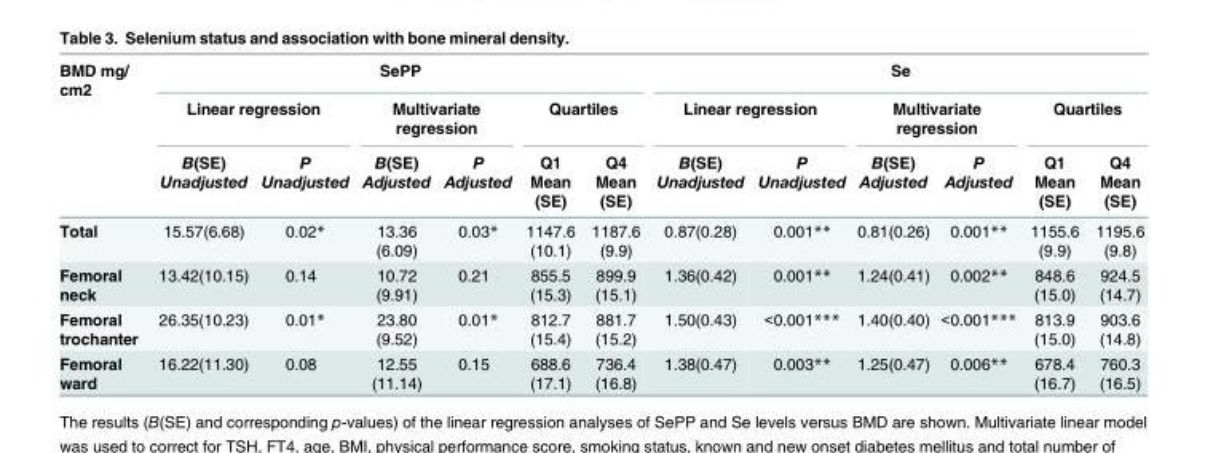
<table><thead><tr><td rowspan="3">BMD mg/ cm2</td><td colspan="6">SePP</td><td colspan="6">Se</td></tr><tr><td colspan="2">Linear regression</td><td colspan="2">Multivariate regression</td><td colspan="2">Quartiles</td><td colspan="2">Linear regression</td><td colspan="2">Multivariate regression</td><td colspan="2">Quartiles</td></tr><tr><td>B(SE) Unadjusted</td><td>P Unadjusted</td><td>B(SE) Adjusted</td><td>P Adjusted</td><td>Q1 Mean (SE)</td><td>Q4 Mean (SE)</td><td>B(SE) Unadjusted</td><td>P Unadjusted</td><td>B(SE) Adjusted</td><td>P Adjusted</td><td>Q1 Mean (SE)</td><td>Q4 Mean (SE)</td></tr></thead><tbody><tr><td>Total</td><td>15.57(6.68)</td><td>0.02*</td><td>13.36 (6.09)</td><td>0.03*</td><td>1147.6 (10.1)</td><td>1187.6 (9.9)</td><td>0.87(0.28)</td><td>0.001**</td><td>0.81(0.26)</td><td>0.001**</td><td>1155.6 (9.9)</td><td>1195.6 (9.8)</td></tr><tr><td>Femoral neck</td><td>13.42(10.15)</td><td>0.14</td><td>10.72 (9.91)</td><td>0.21</td><td>855.5 (15.3)</td><td>899.9 (15.1)</td><td>1.36(0.42)</td><td>0.001**</td><td>1.24(0.41)</td><td>0.002**</td><td>848.6 (15.0)</td><td>924.5 (14.7)</td></tr><tr><td>Femoral trochanter</td><td>26.35(10.23)</td><td>0.01*</td><td>23.80 (9.52)</td><td>0.01*</td><td>812.7 (15.4)</td><td>881.7 (15.2)</td><td>1.50(0.43)</td><td>&lt;0.001***</td><td>1.40(0.40)</td><td>&lt;0.001***</td><td>813.9 (15.0)</td><td>903.6 (14.8)</td></tr><tr><td>Femoral ward</td><td>16.22(11.30)</td><td>0.08</td><td>12.55 (11.14)</td><td>0.15</td><td>688.6 (17.1)</td><td>736.4 (16.8)</td><td>1.38(0.47)</td><td>0.003**</td><td>1.25(0.47)</td><td>0.006**</td><td>678.4 (16.7)</td><td>760.3 (16.5)</td></tr></tbody></table>